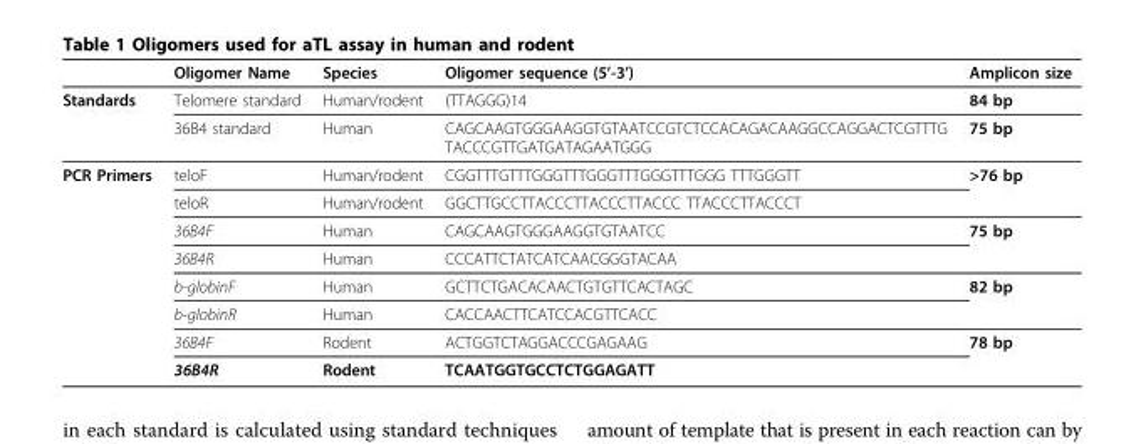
<table><thead><tr><td></td><td>Oligomer Name</td><td>Species</td><td>Oligomer sequence (5’-3’)</td><td>Amplicon size</td></tr></thead><tbody><tr><td rowspan="2">Standards</td><td>Telomere standard</td><td>Human/rodent</td><td>(TTAGGG)14</td><td>84 bp</td></tr><tr><td>36B4 standard</td><td>Human</td><td>CAGCAAGTGGGAAGGTGTAATCCGTCTCCACAGACAAGGCCAGGACTCGTTTG TACCCGTTGATGATAGAATGGG</td><td>75 bp</td></tr><tr><td rowspan="8">PCR Primers</td><td>teloF</td><td>Human/rodent</td><td>CGGTTTGTTTGGGTTTGGGTTTGGGTTTGGG TTTGGGTT</td><td>&gt;76 bp</td></tr><tr><td>teloR</td><td>Human/rodent</td><td>GGCTTGCCTTACCCTTACCCTTACCC TTACCCTTACCCT</td><td></td></tr><tr><td>36B4F</td><td>Human</td><td>CAGCAAGTGGGAAGGTGTAATCC</td><td>75 bp</td></tr><tr><td>36B4R</td><td>Human</td><td>CCCATTCTATCATCAACGGGTACAA</td><td></td></tr><tr><td>b-globinF</td><td>Human</td><td>GCTTCTGACACAACTGTGTTCACTAGC</td><td>82 bp</td></tr><tr><td>b-globinR</td><td>Human</td><td>CACCAACTTCATCCACGTTCACC</td><td></td></tr><tr><td>36B4F</td><td>Rodent</td><td>ACTGGTCTAGGACCCGAGAAG</td><td>78 bp</td></tr><tr><td>36B4R</td><td>Rodent</td><td>TCAATGGTGCCTCTGGAGATT</td><td></td></tr></tbody></table>